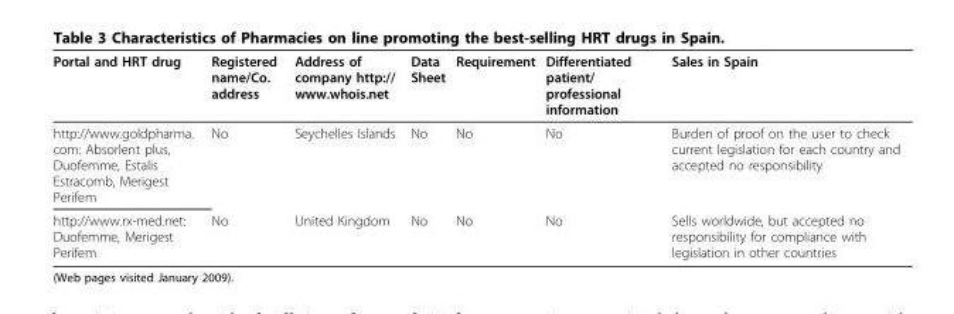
<table><thead><tr><td>Portal and HRT drug</td><td>Registered name/Co. address</td><td>Address of company http:// www.whois.net</td><td>Data Sheet</td><td>Requirement</td><td>Differentiated patient/ professional information</td><td>Sales in Spain</td></tr></thead><tbody><tr><td>http://www.goldpharma. com: Absorlent plus, Duofemme, Estalis Estracomb, Merigest Perifem</td><td>No</td><td>Seychelles Islands</td><td>No</td><td>No</td><td>No</td><td>Burden of proof on the user to check current legislation for each country and accepted no responsibility</td></tr><tr><td>http://www.rx-med.net: Duofemme, Merigest Perifem</td><td>No</td><td>United Kingdom</td><td>No</td><td>No</td><td>No</td><td>Sells worldwide, but accepted no responsibility for compliance with legislation in other countries</td></tr></tbody></table>